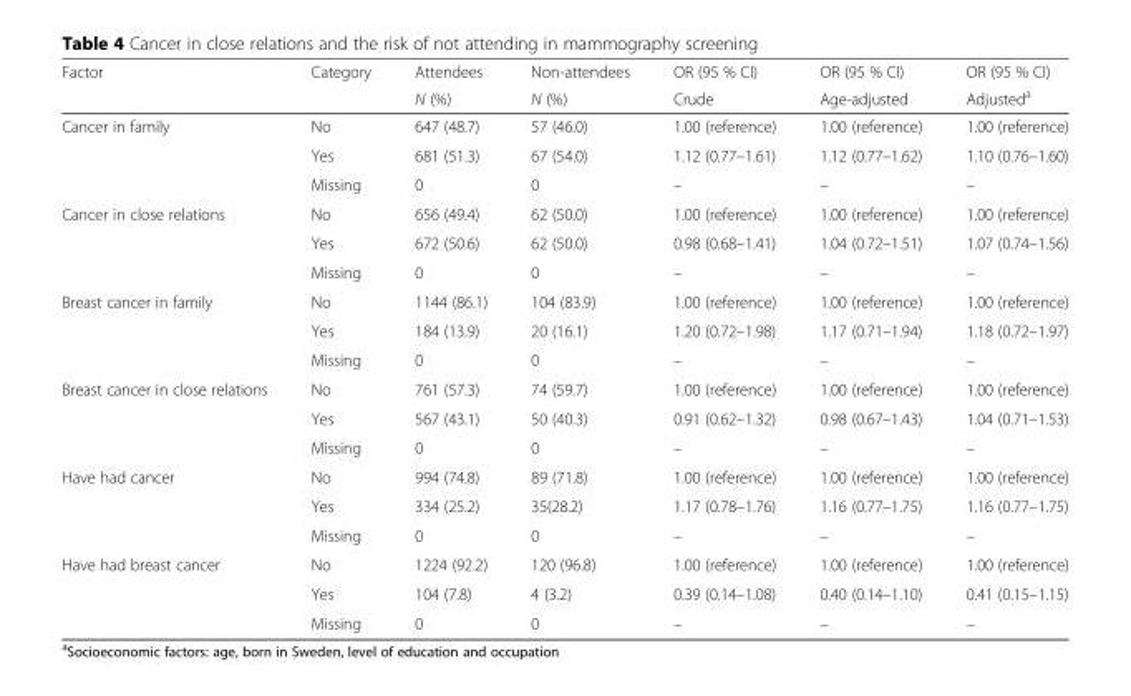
<table><thead><tr><td rowspan="2">Factor</td><td rowspan="2">Category</td><td rowspan="2">Attendees N (%)</td><td rowspan="2">Non-attendees N (%)</td><td rowspan="2">OR (95 % CI) Crude</td><td rowspan="2">OR (95 % CI) Age-adjusted</td><td rowspan="2">OR (95 % CI) Adjusted<sup>a</sup></td></tr><tr></tr></thead><tbody><tr><td rowspan="3">Cancer in family</td><td>No</td><td>647 (48.7)</td><td>57 (46.0)</td><td>1.00 (reference)</td><td>1.00 (reference)</td><td>1.00 (reference)</td></tr><tr><td>Yes</td><td>681 (51.3)</td><td>67 (54.0)</td><td>1.12 (0.77–1.61)</td><td>1.12 (0.77–1.62)</td><td>1.10 (0.76–1.60)</td></tr><tr><td>Missing</td><td>0</td><td>0</td><td>–</td><td>–</td><td>–</td></tr><tr><td rowspan="3">Cancer in close relations</td><td>No</td><td>656 (49.4)</td><td>62 (50.0)</td><td>1.00 (reference)</td><td>1.00 (reference)</td><td>1.00 (reference)</td></tr><tr><td>Yes</td><td>672 (50.6)</td><td>62 (50.0)</td><td>0.98 (0.68–1.41)</td><td>1.04 (0.72–1.51)</td><td>1.07 (0.74–1.56)</td></tr><tr><td>Missing</td><td>0</td><td>0</td><td>–</td><td>–</td><td>–</td></tr><tr><td rowspan="3">Breast cancer in family</td><td>No</td><td>1144 (86.1)</td><td>104 (83.9)</td><td>1.00 (reference)</td><td>1.00 (reference)</td><td>1.00 (reference)</td></tr><tr><td>Yes</td><td>184 (13.9)</td><td>20 (16.1)</td><td>1.20 (0.72–1.98)</td><td>1.17 (0.71–1.94)</td><td>1.18 (0.72–1.97)</td></tr><tr><td>Missing</td><td>0</td><td>0</td><td>–</td><td>–</td><td>–</td></tr><tr><td rowspan="3">Breast cancer in close relations</td><td>No</td><td>761 (57.3)</td><td>74 (59.7)</td><td>1.00 (reference)</td><td>1.00 (reference)</td><td>1.00 (reference)</td></tr><tr><td>Yes</td><td>567 (43.1)</td><td>50 (40.3)</td><td>0.91 (0.62–1.32)</td><td>0.98 (0.67–1.43)</td><td>1.04 (0.71–1.53)</td></tr><tr><td>Missing</td><td>0</td><td>0</td><td>–</td><td>–</td><td>–</td></tr><tr><td rowspan="3">Have had cancer</td><td>No</td><td>994 (74.8)</td><td>89 (71.8)</td><td>1.00 (reference)</td><td>1.00 (reference)</td><td>1.00 (reference)</td></tr><tr><td>Yes</td><td>334 (25.2)</td><td>35(28.2)</td><td>1.17 (0.78–1.76)</td><td>1.16 (0.77–1.75)</td><td>1.16 (0.77–1.75)</td></tr><tr><td>Missing</td><td>0</td><td>0</td><td>–</td><td>–</td><td>–</td></tr><tr><td rowspan="3">Have had breast cancer</td><td>No</td><td>1224 (92.2)</td><td>120 (96.8)</td><td>1.00 (reference)</td><td>1.00 (reference)</td><td>1.00 (reference)</td></tr><tr><td>Yes</td><td>104 (7.8)</td><td>4 (3.2)</td><td>0.39 (0.14–1.08)</td><td>0.40 (0.14–1.10)</td><td>0.41 (0.15–1.15)</td></tr><tr><td>Missing</td><td>0</td><td>0</td><td>–</td><td>–</td><td>–</td></tr></tbody></table>